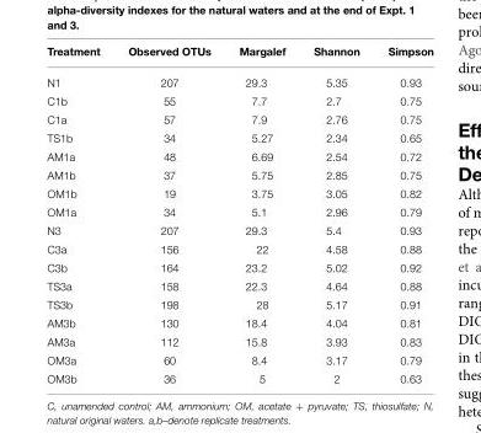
<table><thead><tr><td>Treatment</td><td>Observed OTUs</td><td>Margalef</td><td>Shannon</td><td>Simpson</td></tr></thead><tbody><tr><td>N1</td><td>207</td><td>29.3</td><td>5.35</td><td>0.93</td></tr><tr><td>C1b</td><td>55</td><td>7.7</td><td>2.7</td><td>0.75</td></tr><tr><td>C1a</td><td>57</td><td>7.9</td><td>2.76</td><td>0.75</td></tr><tr><td>TS1b</td><td>34</td><td>5.27</td><td>2.34</td><td>0.65</td></tr><tr><td>AM1a</td><td>48</td><td>6.69</td><td>2.54</td><td>0.72</td></tr><tr><td>AM1b</td><td>37</td><td>5.75</td><td>2.85</td><td>0.75</td></tr><tr><td>OM1b</td><td>19</td><td>3.75</td><td>3.05</td><td>0.82</td></tr><tr><td>OM1a</td><td>34</td><td>5.1</td><td>2.96</td><td>0.79</td></tr><tr><td>N3</td><td>207</td><td>29.3</td><td>5.4</td><td>0.93</td></tr><tr><td>C3a</td><td>156</td><td>22</td><td>4.58</td><td>0.88</td></tr><tr><td>C3b</td><td>164</td><td>23.2</td><td>5.02</td><td>0.92</td></tr><tr><td>TS3a</td><td>158</td><td>22.3</td><td>4.64</td><td>0.88</td></tr><tr><td>TS3b</td><td>198</td><td>28</td><td>5.17</td><td>0.91</td></tr><tr><td>AM3b</td><td>130</td><td>18.4</td><td>4.04</td><td>0.81</td></tr><tr><td>AM3a</td><td>112</td><td>15.8</td><td>3.93</td><td>0.83</td></tr><tr><td>OM3a</td><td>60</td><td>8.4</td><td>3.17</td><td>0.79</td></tr><tr><td>OM3b</td><td>36</td><td>5</td><td>2</td><td>0.63</td></tr></tbody></table>